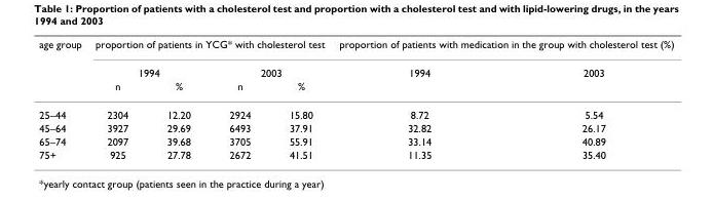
<table><thead><tr><td rowspan="3">age group</td><td colspan="4">proportion of patients in YCG* with cholesterol test</td><td colspan="2">proportion of patients with medication in the group with cholesterol test (%)</td></tr><tr><td colspan="2">1994</td><td colspan="2">2003</td><td rowspan="2">1994</td><td rowspan="2">2003</td></tr><tr><td>n</td><td>%</td><td>n</td><td>%</td></tr></thead><tbody><tr><td>25–44</td><td>2304</td><td>12.20</td><td>2924</td><td>15.80</td><td>8.72</td><td>5.54</td></tr><tr><td>45–64</td><td>3927</td><td>29.69</td><td>6493</td><td>37.91</td><td>32.82</td><td>26.17</td></tr><tr><td>65–74</td><td>2097</td><td>39.68</td><td>3705</td><td>55.91</td><td>33.14</td><td>40.89</td></tr><tr><td>75+</td><td>925</td><td>27.78</td><td>2672</td><td>41.51</td><td>11.35</td><td>35.40</td></tr></tbody></table>